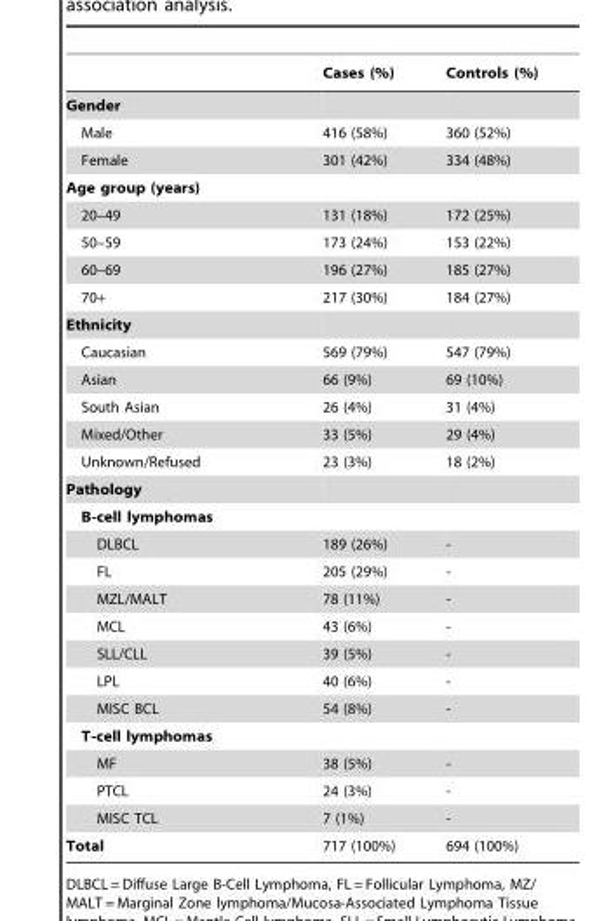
<table><thead><tr><td></td><td>Cases (%)</td><td>Controls (%)</td></tr></thead><tbody><tr><td colspan="3">Gender</td></tr><tr><td>Male</td><td>416 (58%)</td><td>360 (52%)</td></tr><tr><td>Female</td><td>301 (42%)</td><td>334 (48%)</td></tr><tr><td colspan="3">Age group (years)</td></tr><tr><td>20–49</td><td>131 (18%)</td><td>172 (25%)</td></tr><tr><td>50–59</td><td>173 (24%)</td><td>153 (22%)</td></tr><tr><td>60–69</td><td>196 (27%)</td><td>185 (27%)</td></tr><tr><td>70+</td><td>217 (30%)</td><td>184 (27%)</td></tr><tr><td colspan="3">Ethnicity</td></tr><tr><td>Caucasian</td><td>569 (79%)</td><td>547 (79%)</td></tr><tr><td>Asian</td><td>66 (9%)</td><td>69 (10%)</td></tr><tr><td>South Asian</td><td>26 (4%)</td><td>31 (4%)</td></tr><tr><td>Mixed/Other</td><td>33 (5%)</td><td>29 (4%)</td></tr><tr><td>Unknown/Refused</td><td>23 (3%)</td><td>18 (2%)</td></tr><tr><td colspan="3">Pathology</td></tr><tr><td colspan="3">B-cell lymphomas</td></tr><tr><td>DLBCL</td><td>189 (26%)</td><td>-</td></tr><tr><td>FL</td><td>205 (29%)</td><td>-</td></tr><tr><td>MZL/MALT</td><td>78 (11%)</td><td>-</td></tr><tr><td>MCL</td><td>43 (6%)</td><td>-</td></tr><tr><td>SLL/CLL</td><td>39 (5%)</td><td>-</td></tr><tr><td>LPL</td><td>40 (6%)</td><td>-</td></tr><tr><td>MISC BCL</td><td>54 (8%)</td><td>-</td></tr><tr><td colspan="3">T-cell lymphomas</td></tr><tr><td>MF</td><td>38 (5%)</td><td>-</td></tr><tr><td>PTCL</td><td>24 (3%)</td><td>-</td></tr><tr><td>MISC TCL</td><td>7 (1%)</td><td>-</td></tr><tr><td>Total</td><td>717 (100%)</td><td>694 (100%)</td></tr></tbody></table>